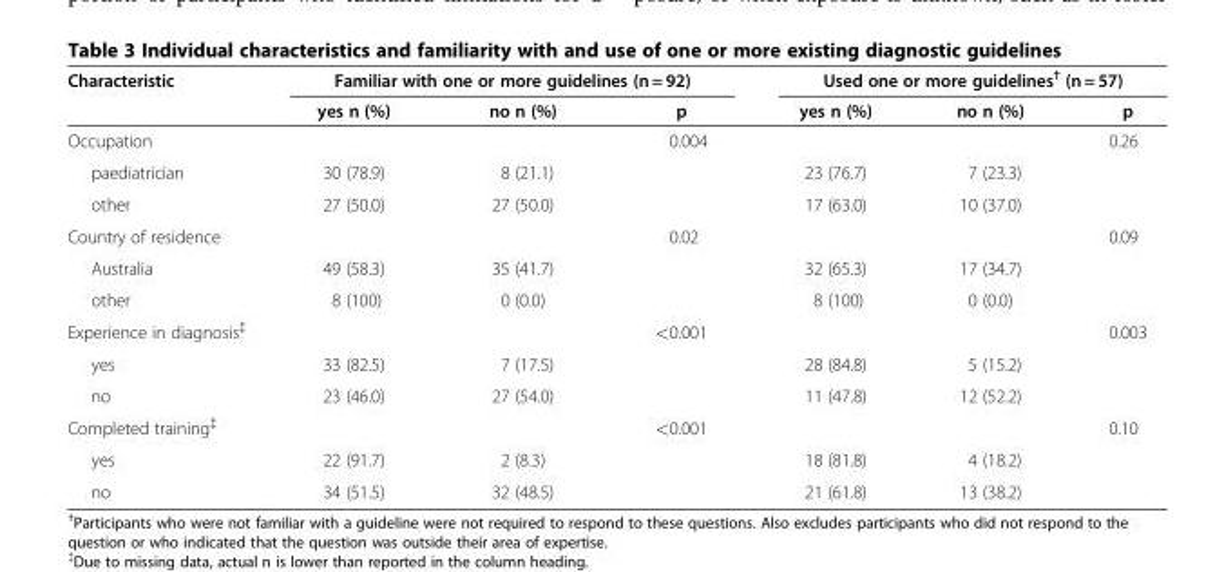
<table><thead><tr><td rowspan="2">Characteristic</td><td colspan="3">Familiar with one or more guidelines (n = 92)</td><td colspan="3">Used one or more guidelines<sup>†</sup> (n = 57)</td></tr><tr><td>yes n (%)</td><td>no n (%)</td><td>p</td><td>yes n (%)</td><td>no n (%)</td><td>p</td></tr></thead><tbody><tr><td>Occupation</td><td></td><td></td><td>0.004</td><td></td><td></td><td>0.26</td></tr><tr><td>paediatrician</td><td>30 (78.9)</td><td>8 (21.1)</td><td></td><td>23 (76.7)</td><td>7 (23.3)</td><td></td></tr><tr><td>other</td><td>27 (50.0)</td><td>27 (50.0)</td><td></td><td>17 (63.0)</td><td>10 (37.0)</td><td></td></tr><tr><td>Country of residence</td><td></td><td></td><td>0.02</td><td></td><td></td><td>0.09</td></tr><tr><td>Australia</td><td>49 (58.3)</td><td>35 (41.7)</td><td></td><td>32 (65.3)</td><td>17 (34.7)</td><td></td></tr><tr><td>other</td><td>8 (100)</td><td>0 (0.0)</td><td></td><td>8 (100)</td><td>0 (0.0)</td><td></td></tr><tr><td>Experience in diagnosis<sup>‡</sup></td><td></td><td></td><td>&lt;0.001</td><td></td><td></td><td>0.003</td></tr><tr><td>yes</td><td>33 (82.5)</td><td>7 (17.5)</td><td></td><td>28 (84.8)</td><td>5 (15.2)</td><td></td></tr><tr><td>no</td><td>23 (46.0)</td><td>27 (54.0)</td><td></td><td>11 (47.8)</td><td>12 (52.2)</td><td></td></tr><tr><td>Completed training<sup>‡</sup></td><td></td><td></td><td>&lt;0.001</td><td></td><td></td><td>0.10</td></tr><tr><td>yes</td><td>22 (91.7)</td><td>2 (8.3)</td><td></td><td>18 (81.8)</td><td>4 (18.2)</td><td></td></tr><tr><td>no</td><td>34 (51.5)</td><td>32 (48.5)</td><td></td><td>21 (61.8)</td><td>13 (38.2)</td><td></td></tr></tbody></table>